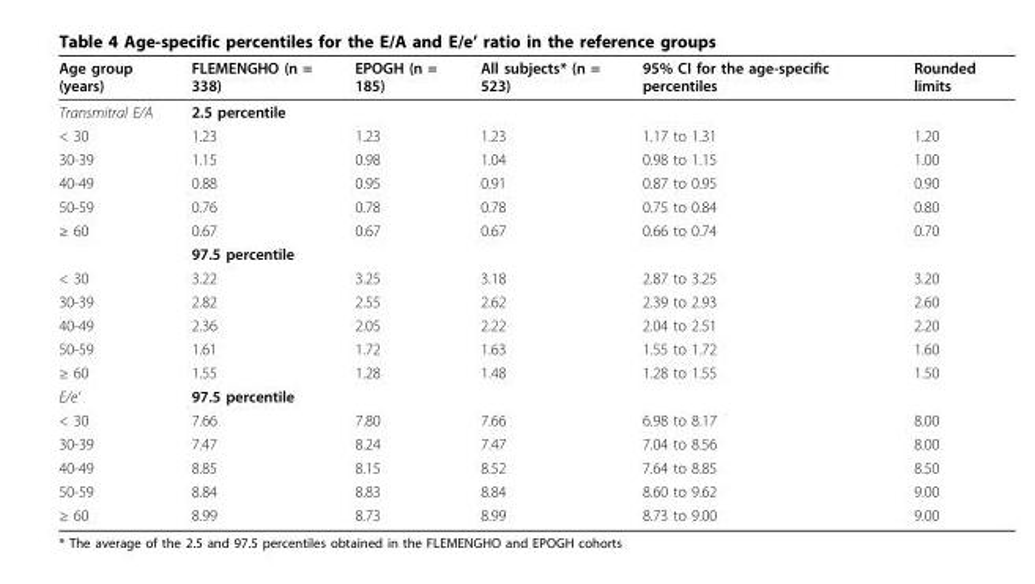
<table><thead><tr><td>Age group (years)</td><td>FLEMENGHO (n = 338)</td><td>EPOGH (n = 185)</td><td>All subjects* (n = 523)</td><td>95% CI for the age-specific percentiles</td><td>Rounded limits</td></tr></thead><tbody><tr><td>Transmitral E/A</td><td>2.5 percentile</td><td></td><td></td><td></td><td></td></tr><tr><td>&lt; 30</td><td>1.23</td><td>1.23</td><td>1.23</td><td>1.17 to 1.31</td><td>1.20</td></tr><tr><td>30-39</td><td>1.15</td><td>0.98</td><td>1.04</td><td>0.98 to 1.15</td><td>1.00</td></tr><tr><td>40-49</td><td>0.88</td><td>0.95</td><td>0.91</td><td>0.87 to 0.95</td><td>0.90</td></tr><tr><td>50-59</td><td>0.76</td><td>0.78</td><td>0.78</td><td>0.75 to 0.84</td><td>0.80</td></tr><tr><td rowspan="2">≥ 60</td><td>0.67</td><td>0.67</td><td>0.67</td><td>0.66 to 0.74</td><td>0.70</td></tr><tr><td>97.5 percentile</td><td></td><td></td><td></td><td></td></tr><tr><td>&lt; 30</td><td>3.22</td><td>3.25</td><td>3.18</td><td>2.87 to 3.25</td><td>3.20</td></tr><tr><td>30-39</td><td>2.82</td><td>2.55</td><td>2.62</td><td>2.39 to 2.93</td><td>2.60</td></tr><tr><td>40-49</td><td>2.36</td><td>2.05</td><td>2.22</td><td>2.04 to 2.51</td><td>2.20</td></tr><tr><td>50-59</td><td>1.61</td><td>1.72</td><td>1.63</td><td>1.55 to 1.72</td><td>1.60</td></tr><tr><td>≥ 60</td><td>1.55</td><td>1.28</td><td>1.48</td><td>1.28 to 1.55</td><td>1.50</td></tr><tr><td>E/e’</td><td>97.5 percentile</td><td></td><td></td><td></td><td></td></tr><tr><td>&lt; 30</td><td>7.66</td><td>7.80</td><td>7.66</td><td>6.98 to 8.17</td><td>8.00</td></tr><tr><td>30-39</td><td>7.47</td><td>8.24</td><td>7.47</td><td>7.04 to 8.56</td><td>8.00</td></tr><tr><td>40-49</td><td>8.85</td><td>8.15</td><td>8.52</td><td>7.64 to 8.85</td><td>8.50</td></tr><tr><td>50-59</td><td>8.84</td><td>8.83</td><td>8.84</td><td>8.60 to 9.62</td><td>9.00</td></tr><tr><td>≥ 60</td><td>8.99</td><td>8.73</td><td>8.99</td><td>8.73 to 9.00</td><td>9.00</td></tr></tbody></table>